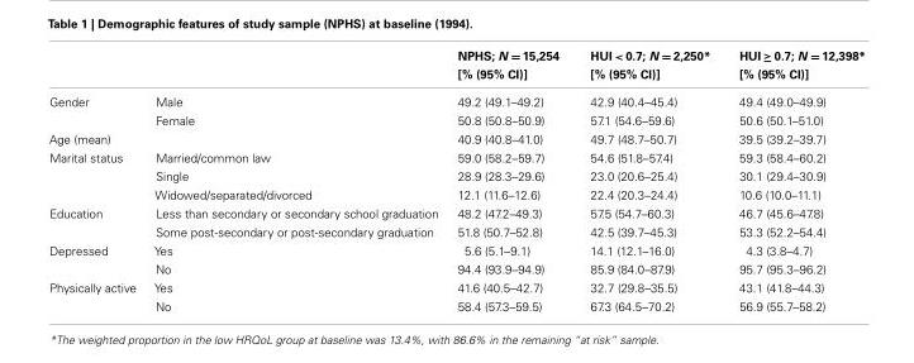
<table><thead><tr><td></td><td></td><td>NPHS; N = 15,254 [% (95% CI)]</td><td>HUI &lt; 0.7; N = 2,250* [% (95% CI)]</td><td>HUI ≥ 0.7; N = 12,398* [% (95% CI)]</td></tr></thead><tbody><tr><td rowspan="2">Gender</td><td>Male</td><td>49.2 (49.1–49.2)</td><td>42.9 (40.4–45.4)</td><td>49.4 (49.0–49.9)</td></tr><tr><td>Female</td><td>50.8 (50.8–50.9)</td><td>57.1 (54.6–59.6)</td><td>50.6 (50.1–51.0)</td></tr><tr><td>Age (mean)</td><td></td><td>40.9 (40.8–41.0)</td><td>49.7 (48.7–50.7)</td><td>39.5 (39.2–39.7)</td></tr><tr><td rowspan="3">Marital status</td><td>Married/common law</td><td>59.0 (58.2–59.7)</td><td>54.6 (51.8–57.4)</td><td>59.3 (58.4–60.2)</td></tr><tr><td>Single</td><td>28.9 (28.3–29.6)</td><td>23.0 (20.6–25.4)</td><td>30.1 (29.4–30.9)</td></tr><tr><td>Widowed/separated/divorced</td><td>12.1 (11.6–12.6)</td><td>22.4 (20.3–24.4)</td><td>10.6 (10.0–11.1)</td></tr><tr><td rowspan="2">Education</td><td>Less than secondary or secondary school graduation</td><td>48.2 (47.2–49.3)</td><td>57.5 (54.7–60.3)</td><td>46.7 (45.6–47.8)</td></tr><tr><td>Some post-secondary or post-secondary graduation</td><td>51.8 (50.7–52.8)</td><td>42.5 (39.7–45.3)</td><td>53.3 (52.2–54.4)</td></tr><tr><td rowspan="2">Depressed</td><td>Yes</td><td>5.6 (5.1–9.1)</td><td>14.1 (12.1–16.0)</td><td>4.3 (3.8–4.7)</td></tr><tr><td>No</td><td>94.4 (93.9–94.9)</td><td>85.9 (84.0–87.9)</td><td>95.7 (95.3–96.2)</td></tr><tr><td rowspan="2">Physically active</td><td>Yes</td><td>41.6 (40.5–42.7)</td><td>32.7 (29.8–35.5)</td><td>43.1 (41.8–44.3)</td></tr><tr><td>No</td><td>58.4 (57.3–59.5)</td><td>67.3 (64.5–70.2)</td><td>56.9 (55.7–58.2)</td></tr></tbody></table>